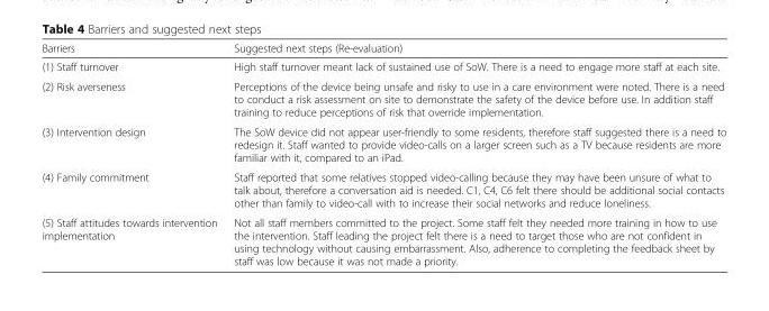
<table><thead><tr><td>Barriers</td><td>Suggested next steps (Re-evaluation)</td></tr></thead><tbody><tr><td>(1) Staff turnover</td><td>High staff turnover meant lack of sustained use of SoW. There is a need to engage more staff at each site.</td></tr><tr><td>(2) Risk averseness</td><td>Perceptions of the device being unsafe and risky to use in a care environment were noted. There is a need to conduct a risk assessment on site to demonstrate the safety of the device before use. In addition staff training to reduce perceptions of risk that override implementation.</td></tr><tr><td>(3) Intervention design</td><td>The SoW device did not appear user-friendly to some residents, therefore staff suggested there is a need to redesign it. Staff wanted to provide video-calls on a larger screen such as a TV because residents are more familiar with it, compared to an iPad.</td></tr><tr><td>(4) Family commitment</td><td>Staff reported that some relatives stopped video-calling because they may have been unsure of what to talk about, therefore a conversation aid is needed. C1, C4, C6 felt there should be additional social contacts other than family to video-call with to increase their social networks and reduce loneliness.</td></tr><tr><td>(5) Staff attitudes towards intervention implementation</td><td>Not all staff members committed to the project. Some staff felt they needed more training in how to use the intervention. Staff leading the project felt there is a need to target those who are not confident in using technology without causing embarrassment. Also, adherence to completing the feedback sheet by staff was low because it was not made a priority.</td></tr></tbody></table>